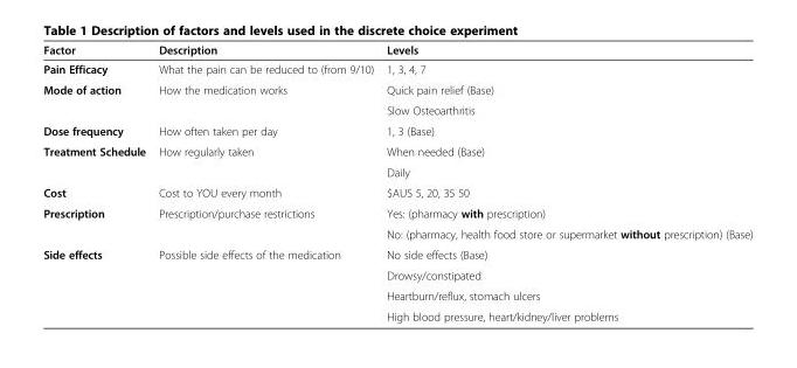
<table><thead><tr><td>Factor</td><td>Description</td><td>Levels</td></tr></thead><tbody><tr><td>Pain Efficacy</td><td>What the pain can be reduced to (from 9/10)</td><td>1, 3, 4, 7</td></tr><tr><td rowspan="2">Mode of action</td><td rowspan="2">How the medication works</td><td>Quick pain relief (Base)</td></tr><tr><td>Slow Osteoarthritis</td></tr><tr><td>Dose frequency</td><td>How often taken per day</td><td>1, 3 (Base)</td></tr><tr><td rowspan="2">Treatment Schedule</td><td rowspan="2">How regularly taken</td><td>When needed (Base)</td></tr><tr><td>Daily</td></tr><tr><td>Cost</td><td>Cost to YOU every month</td><td>$AUS 5, 20, 35 50</td></tr><tr><td rowspan="2">Prescription</td><td rowspan="2">Prescription/purchase restrictions</td><td>Yes: (pharmacy with prescription)</td></tr><tr><td>No: (pharmacy, health food store or supermarket without prescription) (Base)</td></tr><tr><td rowspan="4">Side effects</td><td rowspan="4">Possible side effects of the medication</td><td>No side effects (Base)</td></tr><tr><td>Drowsy/constipated</td></tr><tr><td>Heartburn/reflux, stomach ulcers</td></tr><tr><td>High blood pressure, heart/kidney/liver problems</td></tr></tbody></table>